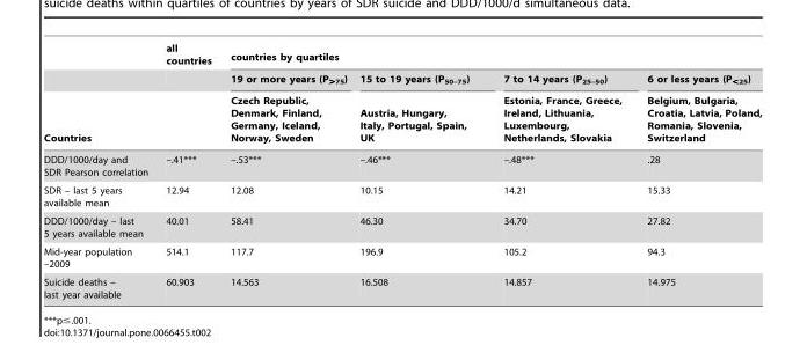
<table><thead><tr><td rowspan="3">Countries</td><td rowspan="3">all countries</td><td colspan="4">countries by quartiles</td></tr><tr><td rowspan="2">19 or more years (P<sub>&gt;75</sub>) Czech Republic, Denmark, Finland, Germany, Iceland, Norway, Sweden</td><td rowspan="2">15 to 19 years (P<sub>50–75</sub>) Austria, Hungary, Italy, Portugal, Spain, UK</td><td rowspan="2">7 to 14 years (P<sub>25–50</sub>) Estonia, France, Greece, Ireland, Lithuania, Luxembourg, Netherlands, Slovakia</td><td rowspan="2">6 or less years (P<sub>&lt;25</sub>) Belgium, Bulgaria, Croatia, Latvia, Poland, Romania, Slovenia, Switzerland</td></tr><tr></tr></thead><tbody><tr><td>DDD/1000/day and SDR Pearson correlation</td><td>–.41***</td><td>–.53***</td><td>–.46***</td><td>–.48***</td><td>.28</td></tr><tr><td>SDR – last 5 years available mean</td><td>12.94</td><td>12.08</td><td>10.15</td><td>14.21</td><td>15.33</td></tr><tr><td>DDD/1000/day – last 5 years available mean</td><td>40.01</td><td>58.41</td><td>46.30</td><td>34.70</td><td>27.82</td></tr><tr><td>Mid-year population –2009</td><td>514.1</td><td>117.7</td><td>196.9</td><td>105.2</td><td>94.3</td></tr><tr><td>Suicide deaths – last year available</td><td>60.903</td><td>14.563</td><td>16.508</td><td>14.857</td><td>14.975</td></tr></tbody></table>